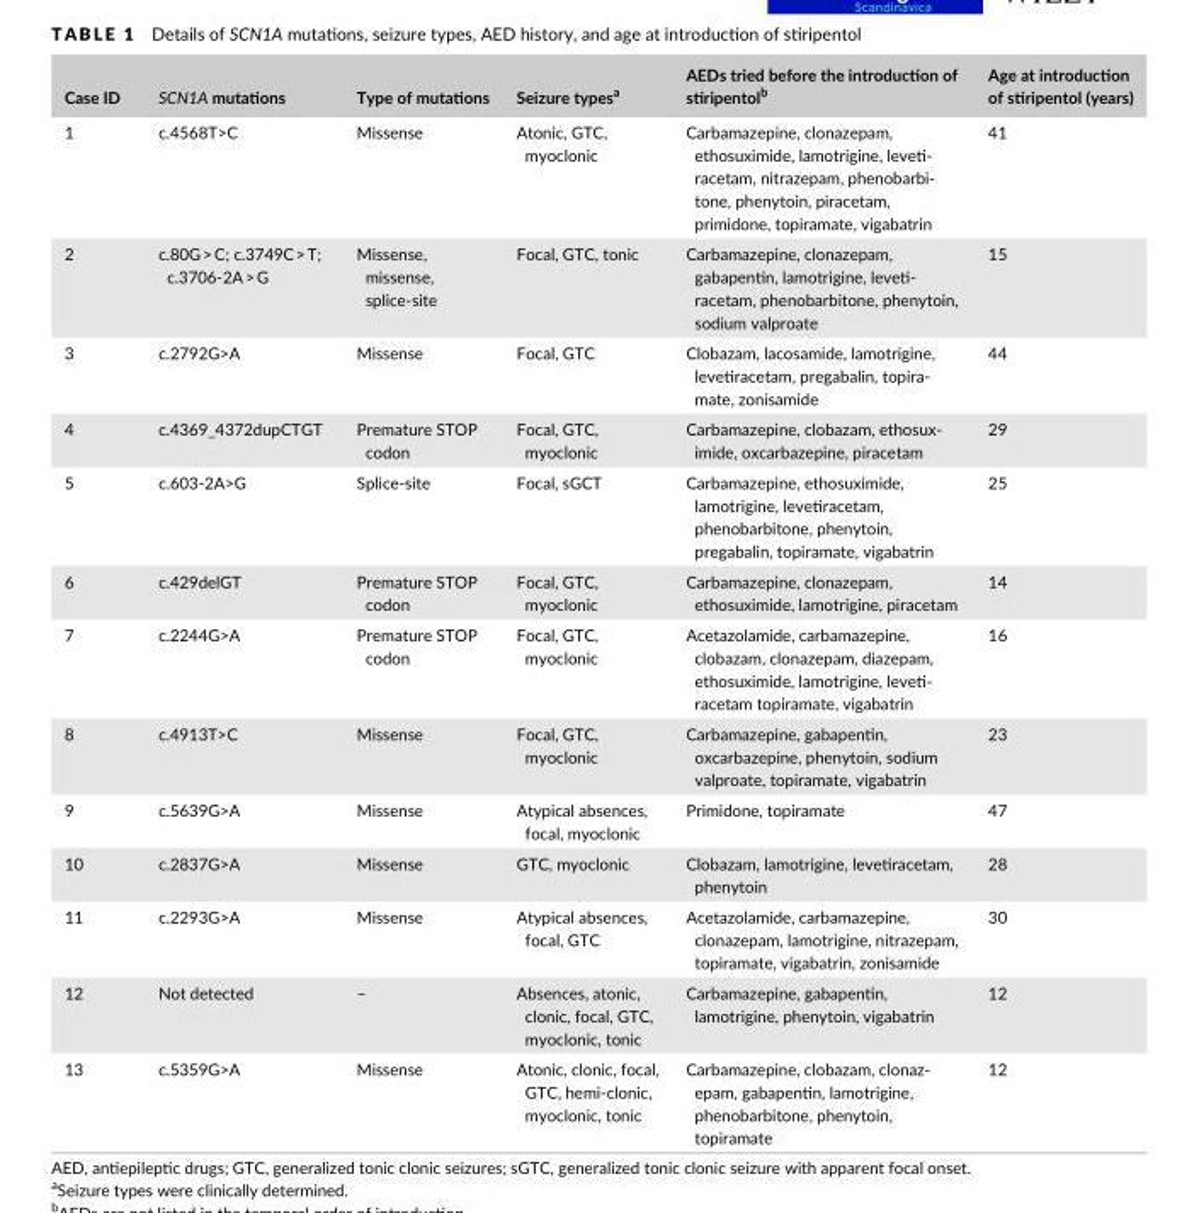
<table><thead><tr><td>Case ID</td><td>SCN1A mutations</td><td>Type of mutations</td><td>Seizure types<sup>a</sup></td><td>AEDs tried before the introduction of stiripentol<sup>b</sup></td><td>Age at introduction of stiripentol (years)</td></tr></thead><tbody><tr><td>1</td><td>c.4568T&gt;C</td><td>Missense</td><td>Atonic, GTC, myoclonic</td><td>Carbamazepine, clonazepam, ethosuximide, lamotrigine, leveti- racetam, nitrazepam, phenobarbi- tone, phenytoin, piracetam, primidone, topiramate, vigabatrin</td><td>41</td></tr><tr><td>2</td><td>c.80G &gt; C; c.3749C &gt; T; c.3706- 2A &gt; G</td><td>Missense, missense, splice- site</td><td>Focal, GTC, tonic</td><td>Carbamazepine, clonazepam, gabapentin, lamotrigine, leveti- racetam, phenobarbitone, phenytoin, sodium valproate</td><td>15</td></tr><tr><td>3</td><td>c.2792G&gt;A</td><td>Missense</td><td>Focal, GTC</td><td>Clobazam, lacosamide, lamotrigine, levetiracetam, pregabalin, topira- mate, zonisamide</td><td>44</td></tr><tr><td>4</td><td>c.4369_4372dupCTGT</td><td>Premature STOP codon</td><td>Focal, GTC, myoclonic</td><td>Carbamazepine, clobazam, ethosux- imide, oxcarbazepine, piracetam</td><td>29</td></tr><tr><td>5</td><td>c.603- 2A&gt;G</td><td>Splice- site</td><td>Focal, sGCT</td><td>Carbamazepine, ethosuximide, lamotrigine, levetiracetam, phenobarbitone, phenytoin, pregabalin, topiramate, vigabatrin</td><td>25</td></tr><tr><td>6</td><td>c.429delGT</td><td>Premature STOP codon</td><td>Focal, GTC, myoclonic</td><td>Carbamazepine, clonazepam, ethosuximide, lamotrigine, piracetam</td><td>14</td></tr><tr><td>7</td><td>c.2244G&gt;A</td><td>Premature STOP codon</td><td>Focal, GTC, myoclonic</td><td>Acetazolamide, carbamazepine, clobazam, clonazepam, diazepam, ethosuximide, lamotrigine, leveti- racetam topiramate, vigabatrin</td><td>16</td></tr><tr><td>8</td><td>c.4913T&gt;C</td><td>Missense</td><td>Focal, GTC, myoclonic</td><td>Carbamazepine, gabapentin, oxcarbazepine, phenytoin, sodium valproate, topiramate, vigabatrin</td><td>23</td></tr><tr><td>9</td><td>c.5639G&gt;A</td><td>Missense</td><td>Atypical absences, focal, myoclonic</td><td>Primidone, topiramate</td><td>47</td></tr><tr><td>10</td><td>c.2837G&gt;A</td><td>Missense</td><td>GTC, myoclonic</td><td>Clobazam, lamotrigine, levetiracetam, phenytoin</td><td>28</td></tr><tr><td>11</td><td>c.2293G&gt;A</td><td>Missense</td><td>Atypical absences, focal, GTC</td><td>Acetazolamide, carbamazepine, clonazepam, lamotrigine, nitrazepam, topiramate, vigabatrin, zonisamide</td><td>30</td></tr><tr><td>12</td><td>Not detected</td><td>–</td><td>Absences, atonic, clonic, focal, GTC, myoclonic, tonic</td><td>Carbamazepine, gabapentin, lamotrigine, phenytoin, vigabatrin</td><td>12</td></tr><tr><td>13</td><td>c.5359G&gt;A</td><td>Missense</td><td>Atonic, clonic, focal, GTC, hemi- clonic, myoclonic, tonic</td><td>Carbamazepine, clobazam, clonaz- epam, gabapentin, lamotrigine, phenobarbitone, phenytoin, topiramate</td><td>12</td></tr></tbody></table>